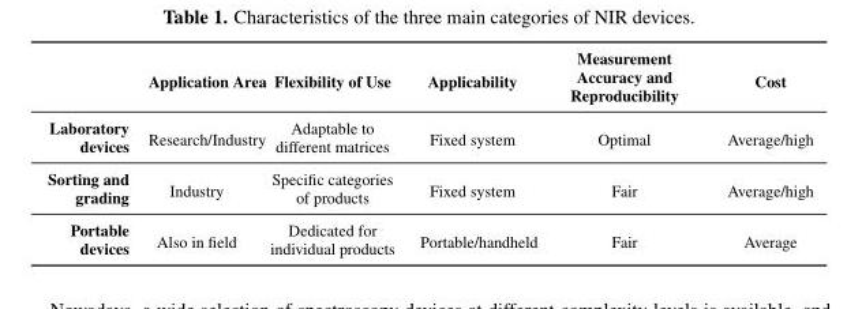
<table><thead><tr><td></td><td>Application Area</td><td>Flexibility of Use</td><td>Applicability</td><td>Measurement Accuracy and Reproducibility</td><td>Cost</td></tr></thead><tbody><tr><td>Laboratory devices</td><td>Research/Industry</td><td>Adaptable to different matrices</td><td>Fixed system</td><td>Optimal</td><td>Average/high</td></tr><tr><td>Sorting and grading</td><td>Industry</td><td>Specific categories of products</td><td>Fixed system</td><td>Fair</td><td>Average/high</td></tr><tr><td>Portable devices</td><td>Also in field</td><td>Dedicated for individual products</td><td>Portable/handheld</td><td>Fair</td><td>Average</td></tr></tbody></table>